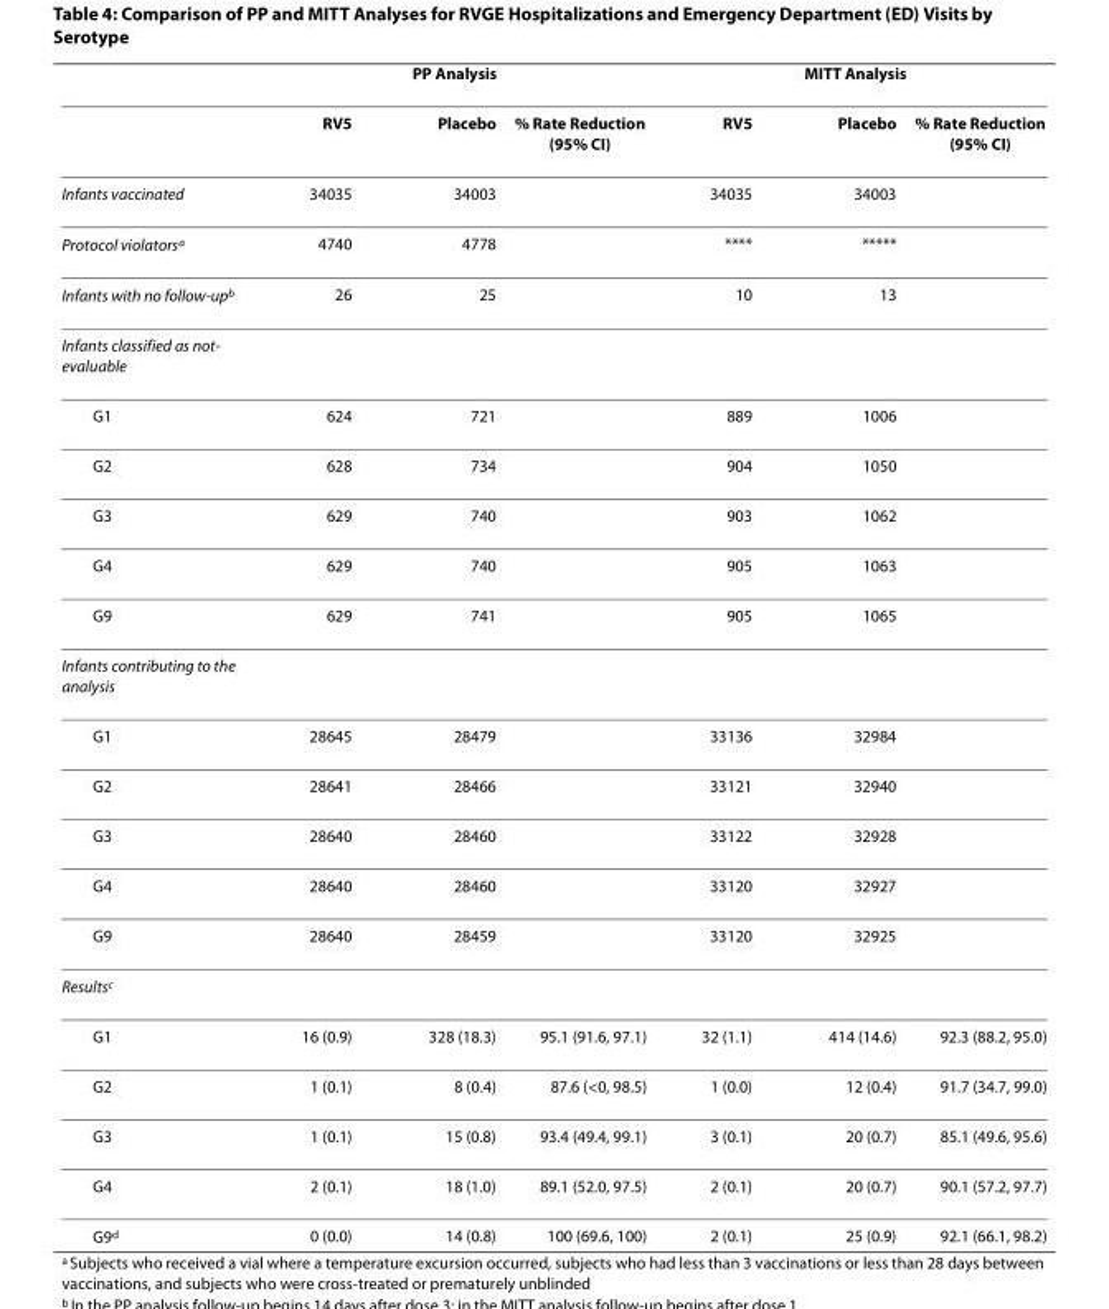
<table><thead><tr><td rowspan="2"></td><td colspan="3">PP Analysis</td><td colspan="3">MITT Analysis</td></tr><tr><td>RV5</td><td>Placebo</td><td>% Rate Reduction (95% CI)</td><td>RV5</td><td>Placebo</td><td>% Rate Reduction (95% CI)</td></tr></thead><tbody><tr><td>Infants vaccinated</td><td>34035</td><td>34003</td><td></td><td>34035</td><td>34003</td><td></td></tr><tr><td>Protocol violatorsa</td><td>4740</td><td>4778</td><td></td><td>****</td><td>*****</td><td></td></tr><tr><td>Infants with no follow-upb</td><td>26</td><td>25</td><td></td><td>10</td><td>13</td><td></td></tr><tr><td colspan="7">Infants classified as not- evaluable</td></tr><tr><td>G1</td><td>624</td><td>721</td><td></td><td>889</td><td>1006</td><td></td></tr><tr><td>G2</td><td>628</td><td>734</td><td></td><td>904</td><td>1050</td><td></td></tr><tr><td>G3</td><td>629</td><td>740</td><td></td><td>903</td><td>1062</td><td></td></tr><tr><td>G4</td><td>629</td><td>740</td><td></td><td>905</td><td>1063</td><td></td></tr><tr><td>G9</td><td>629</td><td>741</td><td></td><td>905</td><td>1065</td><td></td></tr><tr><td colspan="7">Infants contributing to the analysis</td></tr><tr><td>G1</td><td>28645</td><td>28479</td><td></td><td>33136</td><td>32984</td><td></td></tr><tr><td>G2</td><td>28641</td><td>28466</td><td></td><td>33121</td><td>32940</td><td></td></tr><tr><td>G3</td><td>28640</td><td>28460</td><td></td><td>33122</td><td>32928</td><td></td></tr><tr><td>G4</td><td>28640</td><td>28460</td><td></td><td>33120</td><td>32927</td><td></td></tr><tr><td>G9</td><td>28640</td><td>28459</td><td></td><td>33120</td><td>32925</td><td></td></tr><tr><td colspan="7">Resultsc</td></tr><tr><td>G1</td><td>16 (0.9)</td><td>328 (18.3)</td><td>95.1 (91.6, 97.1)</td><td>32 (1.1)</td><td>414 (14.6)</td><td>92.3 (88.2, 95.0)</td></tr><tr><td>G2</td><td>1 (0.1)</td><td>8 (0.4)</td><td>87.6 (&lt;0, 98.5)</td><td>1 (0.0)</td><td>12 (0.4)</td><td>91.7 (34.7, 99.0)</td></tr><tr><td>G3</td><td>1 (0.1)</td><td>15 (0.8)</td><td>93.4 (49.4, 99.1)</td><td>3 (0.1)</td><td>20 (0.7)</td><td>85.1 (49.6, 95.6)</td></tr><tr><td>G4</td><td>2 (0.1)</td><td>18 (1.0)</td><td>89.1 (52.0, 97.5)</td><td>2 (0.1)</td><td>20 (0.7)</td><td>90.1 (57.2, 97.7)</td></tr><tr><td>G9d</td><td>0 (0.0)</td><td>14 (0.8)</td><td>100 (69.6, 100)</td><td>2 (0.1)</td><td>25 (0.9)</td><td>92.1 (66.1, 98.2)</td></tr></tbody></table>